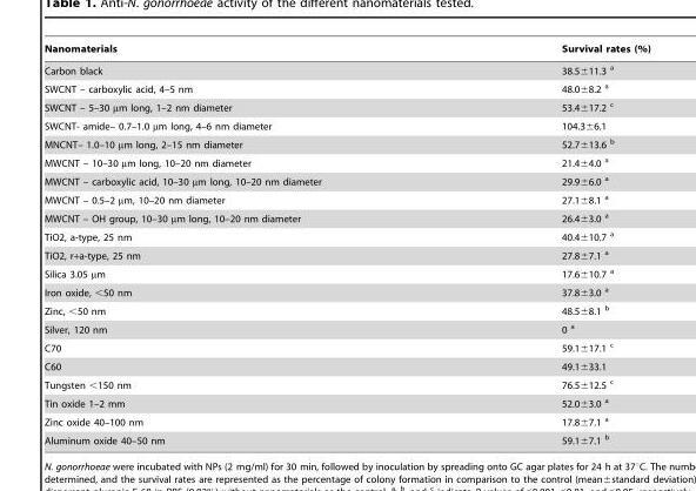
<table><thead><tr><td>Nanomaterials</td><td>Survival rates (%)</td></tr></thead><tbody><tr><td>Carbon black</td><td>38.5±11.3 <sup>a</sup></td></tr><tr><td>SWCNT – carboxylic acid, 4–5 nm</td><td>48.0±8.2 <sup>a</sup></td></tr><tr><td>SWCNT – 5–30 µm long, 1–2 nm diameter</td><td>53.4±17.2 <sup>c</sup></td></tr><tr><td>SWCNT- amide– 0.7–1.0 µm long, 4–6 nm diameter</td><td>104.3±6.1</td></tr><tr><td>MNCNT– 1.0–10 µm long, 2–15 nm diameter</td><td>52.7±13.6 <sup>b</sup></td></tr><tr><td>MWCNT – 10–30 µm long, 10–20 nm diameter</td><td>21.4±4.0 <sup>a</sup></td></tr><tr><td>MWCNT – carboxylic acid, 10–30 µm long, 10–20 nm diameter</td><td>29.9±6.0 <sup>a</sup></td></tr><tr><td>MWCNT – 0.5–2 µm, 10–20 nm diameter</td><td>27.1±8.1 <sup>a</sup></td></tr><tr><td>MWCNT – OH group, 10–30 µm long, 10–20 nm diameter</td><td>26.4±3.0 <sup>a</sup></td></tr><tr><td>TiO2, a-type, 25 nm</td><td>40.4±10.7 <sup>a</sup></td></tr><tr><td>TiO2, r+a-type, 25 nm</td><td>27.8±7.1 <sup>a</sup></td></tr><tr><td>Silica 3.05 µm</td><td>17.6±10.7 <sup>a</sup></td></tr><tr><td>Iron oxide, &lt;50 nm</td><td>37.8±3.0 <sup>a</sup></td></tr><tr><td>Zinc, &lt;50 nm</td><td>48.5±8.1 <sup>b</sup></td></tr><tr><td>Silver, 120 nm</td><td>0 <sup>a</sup></td></tr><tr><td>C70</td><td>59.1±17.1 <sup>c</sup></td></tr><tr><td>C60</td><td>49.1±33.1</td></tr><tr><td>Tungsten &lt;150 nm</td><td>76.5±12.5 <sup>c</sup></td></tr><tr><td>Tin oxide 1–2 mm</td><td>52.0±3.0 <sup>a</sup></td></tr><tr><td>Zinc oxide 40–100 nm</td><td>17.8±7.1 <sup>a</sup></td></tr><tr><td>Aluminum oxide 40–50 nm</td><td>59.1±7.1 <sup>b</sup></td></tr></tbody></table>